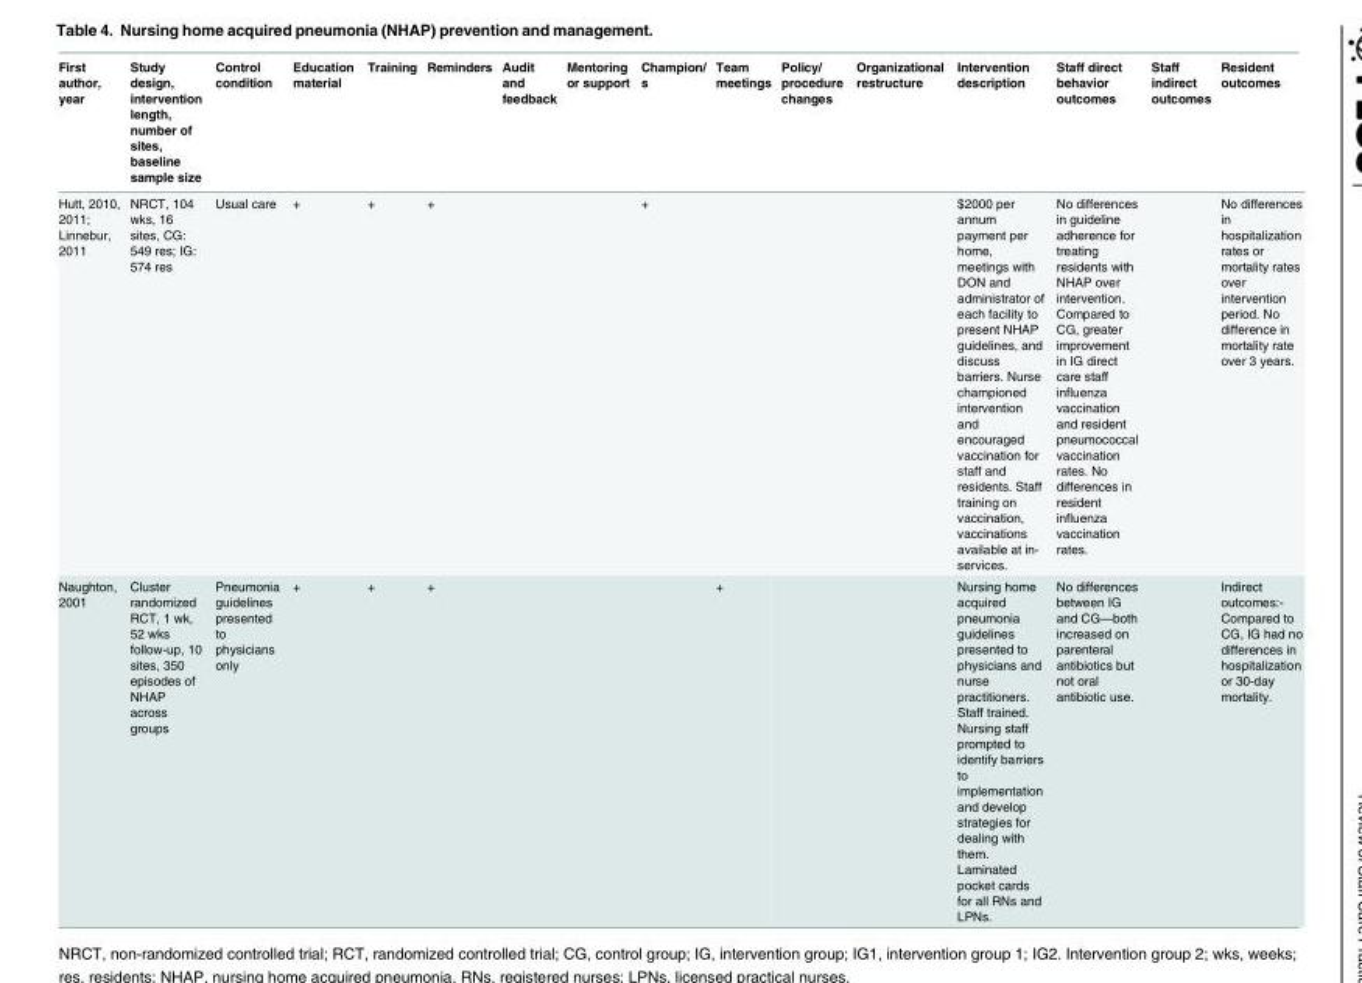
<table><thead><tr><td>First author, year</td><td>Study design, intervention length, number of sites, baseline sample size</td><td>Control condition</td><td>Education material</td><td>Training</td><td>Reminders</td><td>Audit and feedback</td><td>Mentoring or support</td><td>Champion/ s</td><td>Team meetings</td><td>Policy/ procedure changes</td><td>Organizational restructure</td><td>Intervention description</td><td>Staff direct behavior outcomes</td><td>Staff indirect outcomes</td><td>Resident outcomes</td></tr></thead><tbody><tr><td>Hutt, 2010, 2011; Linnebur, 2011</td><td>NRCT, 104 wks, 16 sites, CG: 549 res; IG: 574 res</td><td>Usual care</td><td>+</td><td>+</td><td>+</td><td></td><td></td><td>+</td><td></td><td></td><td></td><td>$2000 per annum payment per home, meetings with DON and administrator of each facility to present NHAP guidelines, and discuss barriers. Nurse championed intervention and encouraged vaccination for staff and residents. Staff training on vaccination, vaccinations available at in- services.</td><td>No differences in guideline adherence for treating residents with NHAP over intervention. Compared to CG, greater improvement in IG direct care staff influenza vaccination and resident pneumococcal vaccination rates. No differences in resident influenza vaccination rates.</td><td></td><td>No differences in hospitalization rates or mortality rates over intervention period. No difference in mortality rate over 3 years.</td></tr><tr><td>Naughton, 2001</td><td>Cluster randomized RCT, 1 wk, 52 wks follow-up, 10 sites, 350 episodes of NHAP across groups</td><td>Pneumonia guidelines presented to physicians only</td><td>+</td><td>+</td><td>+</td><td></td><td></td><td></td><td>+</td><td></td><td></td><td>Nursing home acquired pneumonia guidelines presented to physicians and nurse practitioners. Staff trained. Nursing staff prompted to identify barriers to implementation and develop strategies for dealing with them. Laminated pocket cards for all RNs and LPNs.</td><td>No differences between IG and CG—both increased on parenteral antibiotics but not oral antibiotic use.</td><td></td><td>Indirect outcomes:- Compared to CG, IG had no differences in hospitalization or 30-day mortality.</td></tr></tbody></table>